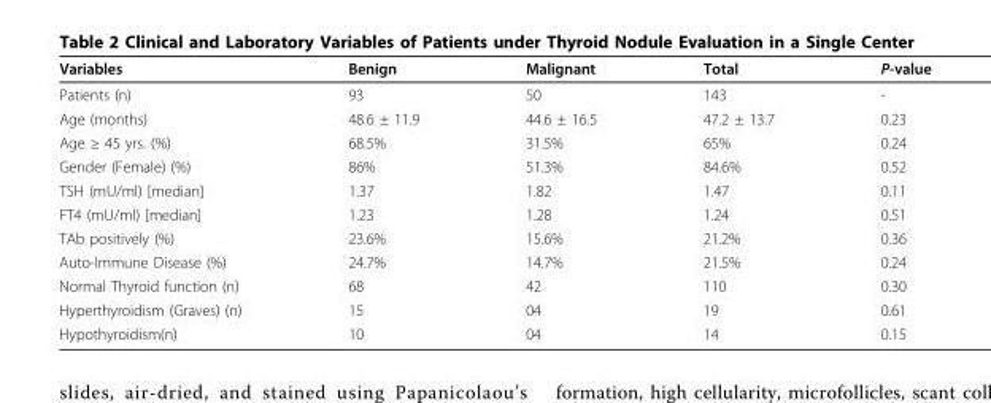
<table><thead><tr><td>Variables</td><td>Benign</td><td>Malignant</td><td>Total</td><td>P-value</td></tr></thead><tbody><tr><td>Patients (n)</td><td>93</td><td>50</td><td>143</td><td>-</td></tr><tr><td>Age (months)</td><td>48.6 ± 11.9</td><td>44.6 ± 16.5</td><td>47.2 ± 13.7</td><td>0.23</td></tr><tr><td>Age ≥ 45 yrs. (%)</td><td>68.5%</td><td>31.5%</td><td>65%</td><td>0.24</td></tr><tr><td>Gender (Female) (%)</td><td>86%</td><td>51.3%</td><td>84.6%</td><td>0.52</td></tr><tr><td>TSH (mU/ml) [median]</td><td>1.37</td><td>1.82</td><td>1.47</td><td>0.11</td></tr><tr><td>FT4 (mU/ml) [median]</td><td>1.23</td><td>1.28</td><td>1.24</td><td>0.51</td></tr><tr><td>TAb positively (%)</td><td>23.6%</td><td>15.6%</td><td>21.2%</td><td>0.36</td></tr><tr><td>Auto-Immune Disease (%)</td><td>24.7%</td><td>14.7%</td><td>21.5%</td><td>0.24</td></tr><tr><td>Normal Thyroid function (n)</td><td>68</td><td>42</td><td>110</td><td>0.30</td></tr><tr><td>Hyperthyroidism (Graves) (n)</td><td>15</td><td>04</td><td>19</td><td>0.61</td></tr><tr><td>Hypothyroidism(n)</td><td>10</td><td>04</td><td>14</td><td>0.15</td></tr></tbody></table>